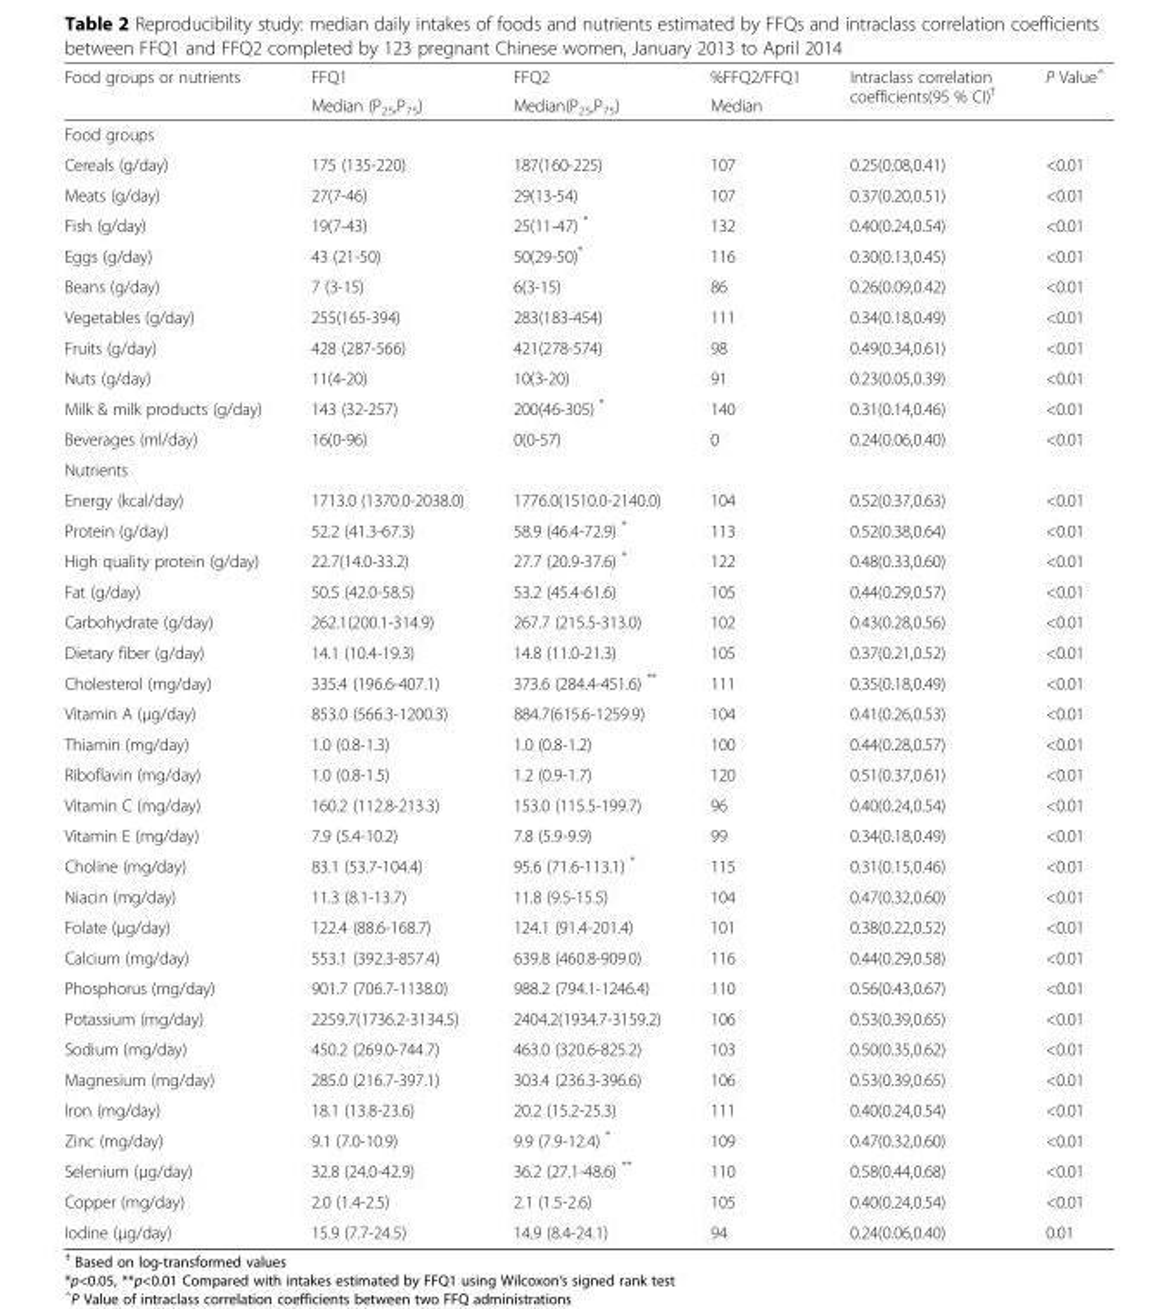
<table><thead><tr><td rowspan="2">Food groups or nutrients</td><td rowspan="2">FFQ1 Median (P<sub>25</sub>,P<sub>75</sub>)</td><td rowspan="2">FFQ2 Median(P<sub>25</sub>,P<sub>75</sub>)</td><td rowspan="2">%FFQ2/FFQ1 Median</td><td rowspan="2">Intraclass correlation coefficients(95 % CI)<sup>†</sup></td><td rowspan="2">P Value<sup>△</sup></td></tr><tr></tr></thead><tbody><tr><td colspan="6">Food groups</td></tr><tr><td>Cereals (g/day)</td><td>175 (135-220)</td><td>187(160-225)</td><td>107</td><td>0.25(0.08,0.41)</td><td>&lt;0.01</td></tr><tr><td>Meats (g/day)</td><td>27(7-46)</td><td>29(13-54)</td><td>107</td><td>0.37(0.20,0.51)</td><td>&lt;0.01</td></tr><tr><td>Fish (g/day)</td><td>19(7-43)</td><td>25(11-47) *</td><td>132</td><td>0.40(0.24,0.54)</td><td>&lt;0.01</td></tr><tr><td>Eggs (g/day)</td><td>43 (21-50)</td><td>50(29-50)*</td><td>116</td><td>0.30(0.13,0.45)</td><td>&lt;0.01</td></tr><tr><td>Beans (g/day)</td><td>7 (3-15)</td><td>6(3-15)</td><td>86</td><td>0.26(0.09,0.42)</td><td>&lt;0.01</td></tr><tr><td>Vegetables (g/day)</td><td>255(165-394)</td><td>283(183-454)</td><td>111</td><td>0.34(0.18,0.49)</td><td>&lt;0.01</td></tr><tr><td>Fruits (g/day)</td><td>428 (287-566)</td><td>421(278-574)</td><td>98</td><td>0.49(0.34,0.61)</td><td>&lt;0.01</td></tr><tr><td>Nuts (g/day)</td><td>11(4-20)</td><td>10(3-20)</td><td>91</td><td>0.23(0.05,0.39)</td><td>&lt;0.01</td></tr><tr><td>Milk &amp; milk products (g/day)</td><td>143 (32-257)</td><td>200(46-305) *</td><td>140</td><td>0.31(0.14,0.46)</td><td>&lt;0.01</td></tr><tr><td>Beverages (ml/day)</td><td>16(0-96)</td><td>0(0-57)</td><td>0</td><td>0.24(0.06,0.40)</td><td>&lt;0.01</td></tr><tr><td colspan="6">Nutrients</td></tr><tr><td>Energy (kcal/day)</td><td>1713.0 (1370.0-2038.0)</td><td>1776.0(1510.0-2140.0)</td><td>104</td><td>0.52(0.37,0.63)</td><td>&lt;0.01</td></tr><tr><td>Protein (g/day)</td><td>52.2 (41.3-67.3)</td><td>58.9 (46.4-72.9) *</td><td>113</td><td>0.52(0.38,0.64)</td><td>&lt;0.01</td></tr><tr><td>High quality protein (g/day)</td><td>22.7(14.0-33.2)</td><td>27.7 (20.9-37.6) *</td><td>122</td><td>0.48(0.33,0.60)</td><td>&lt;0.01</td></tr><tr><td>Fat (g/day)</td><td>50.5 (42.0-58.5)</td><td>53.2 (45.4-61.6)</td><td>105</td><td>0.44(0.29,0.57)</td><td>&lt;0.01</td></tr><tr><td>Carbohydrate (g/day)</td><td>262.1(200.1-314.9)</td><td>267.7 (215.5-313.0)</td><td>102</td><td>0.43(0.28,0.56)</td><td>&lt;0.01</td></tr><tr><td>Dietary fiber (g/day)</td><td>14.1 (10.4-19.3)</td><td>14.8 (11.0-21.3)</td><td>105</td><td>0.37(0.21,0.52)</td><td>&lt;0.01</td></tr><tr><td>Cholesterol (mg/day)</td><td>335.4 (196.6-407.1)</td><td>373.6 (284.4-451.6) **</td><td>111</td><td>0.35(0.18,0.49)</td><td>&lt;0.01</td></tr><tr><td>Vitamin A (μg/day)</td><td>853.0 (566.3-1200.3)</td><td>884.7(615.6-1259.9)</td><td>104</td><td>0.41(0.26,0.53)</td><td>&lt;0.01</td></tr><tr><td>Thiamin (mg/day)</td><td>1.0 (0.8-1.3)</td><td>1.0 (0.8-1.2)</td><td>100</td><td>0.44(0.28,0.57)</td><td>&lt;0.01</td></tr><tr><td>Riboflavin (mg/day)</td><td>1.0 (0.8-1.5)</td><td>1.2 (0.9-1.7)</td><td>120</td><td>0.51(0.37,0.61)</td><td>&lt;0.01</td></tr><tr><td>Vitamin C (mg/day)</td><td>160.2 (112.8-213.3)</td><td>153.0 (115.5-199.7)</td><td>96</td><td>0.40(0.24,0.54)</td><td>&lt;0.01</td></tr><tr><td>Vitamin E (mg/day)</td><td>7.9 (5.4-10.2)</td><td>7.8 (5.9-9.9)</td><td>99</td><td>0.34(0.18,0.49)</td><td>&lt;0.01</td></tr><tr><td>Choline (mg/day)</td><td>83.1 (53.7-104.4)</td><td>95.6 (71.6-113.1) *</td><td>115</td><td>0.31(0.15,0.46)</td><td>&lt;0.01</td></tr><tr><td>Niacin (mg/day)</td><td>11.3 (8.1-13.7)</td><td>11.8 (9.5-15.5)</td><td>104</td><td>0.47(0.32,0.60)</td><td>&lt;0.01</td></tr><tr><td>Folate (μg/day)</td><td>122.4 (88.6-168.7)</td><td>124.1 (91.4-201.4)</td><td>101</td><td>0.38(0.22,0.52)</td><td>&lt;0.01</td></tr><tr><td>Calcium (mg/day)</td><td>553.1 (392.3-857.4)</td><td>639.8 (460.8-909.0)</td><td>116</td><td>0.44(0.29,0.58)</td><td>&lt;0.01</td></tr><tr><td>Phosphorus (mg/day)</td><td>901.7 (706.7-1138.0)</td><td>988.2 (794.1-1246.4)</td><td>110</td><td>0.56(0.43,0.67)</td><td>&lt;0.01</td></tr><tr><td>Potassium (mg/day)</td><td>2259.7(1736.2-3134.5)</td><td>2404.2(1934.7-3159.2)</td><td>106</td><td>0.53(0.39,0.65)</td><td>&lt;0.01</td></tr><tr><td>Sodium (mg/day)</td><td>450.2 (269.0-744.7)</td><td>463.0 (320.6-825.2)</td><td>103</td><td>0.50(0.35,0.62)</td><td>&lt;0.01</td></tr><tr><td>Magnesium (mg/day)</td><td>285.0 (216.7-397.1)</td><td>303.4 (236.3-396.6)</td><td>106</td><td>0.53(0.39,0.65)</td><td>&lt;0.01</td></tr><tr><td>Iron (mg/day)</td><td>18.1 (13.8-23.6)</td><td>20.2 (15.2-25.3)</td><td>111</td><td>0.40(0.24,0.54)</td><td>&lt;0.01</td></tr><tr><td>Zinc (mg/day)</td><td>9.1 (7.0-10.9)</td><td>9.9 (7.9-12.4) *</td><td>109</td><td>0.47(0.32,0.60)</td><td>&lt;0.01</td></tr><tr><td>Selenium (μg/day)</td><td>32.8 (24.0-42.9)</td><td>36.2 (27.1-48.6) **</td><td>110</td><td>0.58(0.44,0.68)</td><td>&lt;0.01</td></tr><tr><td>Copper (mg/day)</td><td>2.0 (1.4-2.5)</td><td>2.1 (1.5-2.6)</td><td>105</td><td>0.40(0.24,0.54)</td><td>&lt;0.01</td></tr><tr><td>Iodine (μg/day)</td><td>15.9 (7.7-24.5)</td><td>14.9 (8.4-24.1)</td><td>94</td><td>0.24(0.06,0.40)</td><td>0.01</td></tr></tbody></table>